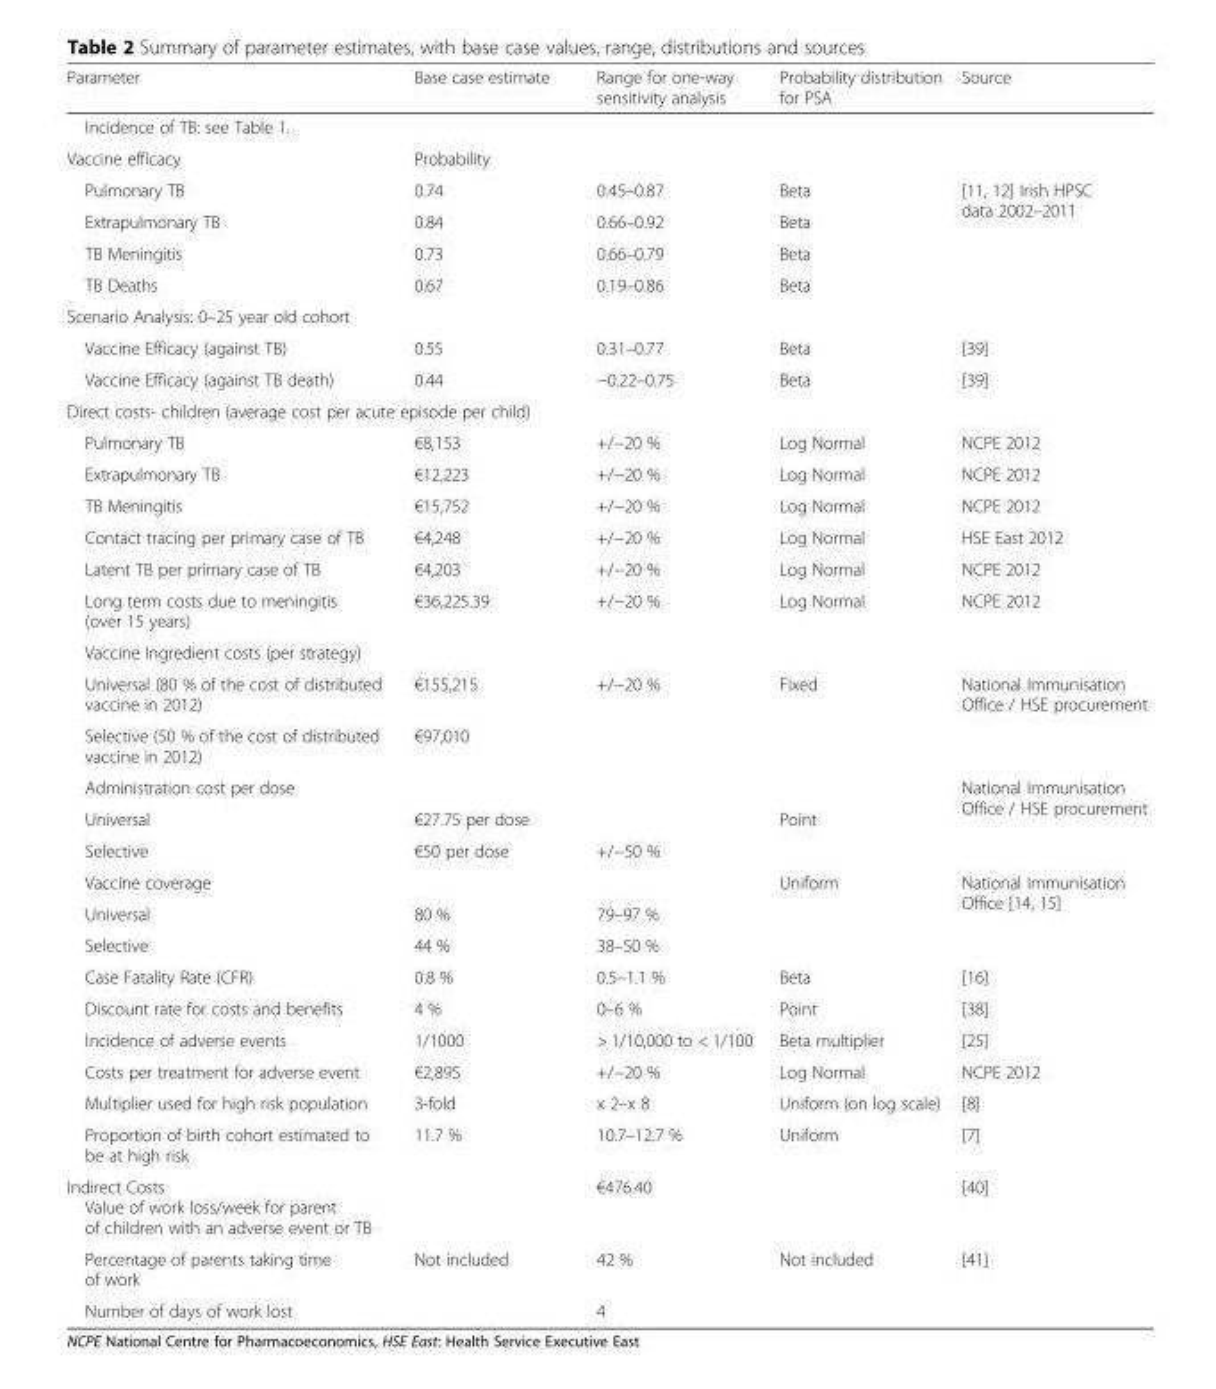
<table><thead><tr><td>Parameter</td><td>Base case estimate</td><td>Range for one-way sensitivity analysis</td><td>Probability distribution for PSA</td><td>Source</td></tr></thead><tbody><tr><td colspan="5">Incidence of TB: see Table 1.</td></tr><tr><td>Vaccine efficacy</td><td>Probability</td><td colspan="3"></td></tr><tr><td>Pulmonary TB</td><td>0.74</td><td>0.45–0.87</td><td>Beta</td><td rowspan="3">[11, 12] Irish HPSC data 2002–2011</td></tr><tr><td>Extrapulmonary TB</td><td>0.84</td><td>0.66–0.92</td><td>Beta</td></tr><tr><td>TB Meningitis</td><td>0.73</td><td>0.66–0.79</td><td>Beta</td></tr><tr><td>TB Deaths</td><td>0.67</td><td>0.19–0.86</td><td>Beta</td><td></td></tr><tr><td colspan="5">Scenario Analysis: 0–25 year old cohort</td></tr><tr><td>Vaccine Efficacy (against TB)</td><td>0.55</td><td>0.31–0.77</td><td>Beta</td><td>[39]</td></tr><tr><td>Vaccine Efficacy (against TB death)</td><td>0.44</td><td>−0.22–0.75</td><td>Beta</td><td>[39]</td></tr><tr><td colspan="5">Direct costs- children (average cost per acute episode per child)</td></tr><tr><td>Pulmonary TB</td><td>€8,153</td><td>+/−20 %</td><td>Log Normal</td><td>NCPE 2012</td></tr><tr><td>Extrapulmonary TB</td><td>€12,223</td><td>+/−20 %</td><td>Log Normal</td><td>NCPE 2012</td></tr><tr><td>TB Meningitis</td><td>€15,752</td><td>+/−20 %</td><td>Log Normal</td><td>NCPE 2012</td></tr><tr><td>Contact tracing per primary case of TB</td><td>€4,248</td><td>+/−20 %</td><td>Log Normal</td><td>HSE East 2012</td></tr><tr><td>Latent TB per primary case of TB</td><td>€4,203</td><td>+/−20 %</td><td>Log Normal</td><td>NCPE 2012</td></tr><tr><td>Long term costs due to meningitis (over 15 years)</td><td>€36,225.39</td><td>+/−20 %</td><td>Log Normal</td><td>NCPE 2012</td></tr><tr><td colspan="5">Vaccine Ingredient costs (per strategy)</td></tr><tr><td>Universal (80 % of the cost of distributed vaccine in 2012)</td><td>€155,215</td><td>+/−20 %</td><td>Fixed</td><td rowspan="2">National Immunisation Office / HSE procurement</td></tr><tr><td>Selective (50 % of the cost of distributed vaccine in 2012)</td><td>€97,010</td><td></td><td></td></tr><tr><td colspan="4">Administration cost per dose</td><td rowspan="3">National Immunisation Office / HSE procurement</td></tr><tr><td>Universal</td><td>€27.75 per dose</td><td></td><td rowspan="2">Point</td></tr><tr><td>Selective</td><td>€50 per dose</td><td>+/−50 %</td></tr><tr><td colspan="3">Vaccine coverage</td><td rowspan="3">Uniform</td><td rowspan="3">National Immunisation Office [14, 15]</td></tr><tr><td>Universal</td><td>80 %</td><td>79–97 %</td></tr><tr><td>Selective</td><td>44 %</td><td>38–50 %</td></tr><tr><td>Case Fatality Rate (CFR)</td><td>0.8 %</td><td>0.5–1.1 %</td><td>Beta</td><td>[16]</td></tr><tr><td>Discount rate for costs and benefits</td><td>4 %</td><td>0–6 %</td><td>Point</td><td>[38]</td></tr><tr><td>Incidence of adverse events</td><td>1/1000</td><td>&gt; 1/10,000 to &lt; 1/100</td><td>Beta multiplier</td><td>[25]</td></tr><tr><td>Costs per treatment for adverse event</td><td>€2,895</td><td>+/−20 %</td><td>Log Normal</td><td>NCPE 2012</td></tr><tr><td>Multiplier used for high risk population</td><td>3-fold</td><td>x 2–x 8</td><td>Uniform (on log scale)</td><td>[8]</td></tr><tr><td>Proportion of birth cohort estimated to be at high risk</td><td>11.7 %</td><td>10.7–12.7 %</td><td>Uniform</td><td>[7]</td></tr><tr><td>Indirect Costs Value of work loss/week for parent of children with an adverse event or TB</td><td></td><td>€476.40</td><td></td><td>[40]</td></tr><tr><td>Percentage of parents taking time of work</td><td>Not included</td><td>42 %</td><td rowspan="2">Not included</td><td>[41]</td></tr><tr><td>Number of days of work lost</td><td></td><td>4</td><td></td></tr></tbody></table>